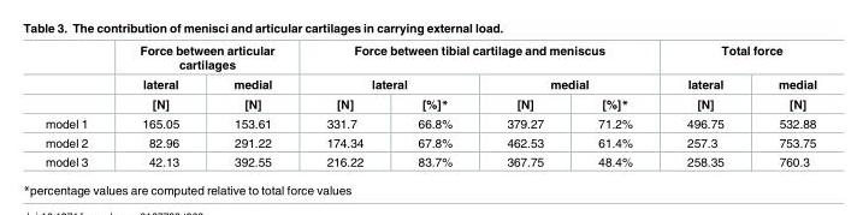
<table><thead><tr><td rowspan="3"></td><td colspan="2">Force between articular cartilages</td><td colspan="4">Force between tibial cartilage and meniscus</td><td colspan="2">Total force</td></tr><tr><td rowspan="2">lateral [N]</td><td rowspan="2">medial [N]</td><td colspan="2">lateral</td><td colspan="2">medial</td><td rowspan="2">lateral [N]</td><td rowspan="2">medial [N]</td></tr><tr><td>[N]</td><td>[%]*</td><td>[N]</td><td>[%]*</td></tr></thead><tbody><tr><td>model 1</td><td>165.05</td><td>153.61</td><td>331.7</td><td>66.8%</td><td>379.27</td><td>71.2%</td><td>496.75</td><td>532.88</td></tr><tr><td>model 2</td><td>82.96</td><td>291.22</td><td>174.34</td><td>67.8%</td><td>462.53</td><td>61.4%</td><td>257.3</td><td>753.75</td></tr><tr><td>model 3</td><td>42.13</td><td>392.55</td><td>216.22</td><td>83.7%</td><td>367.75</td><td>48.4%</td><td>258.35</td><td>760.3</td></tr></tbody></table>